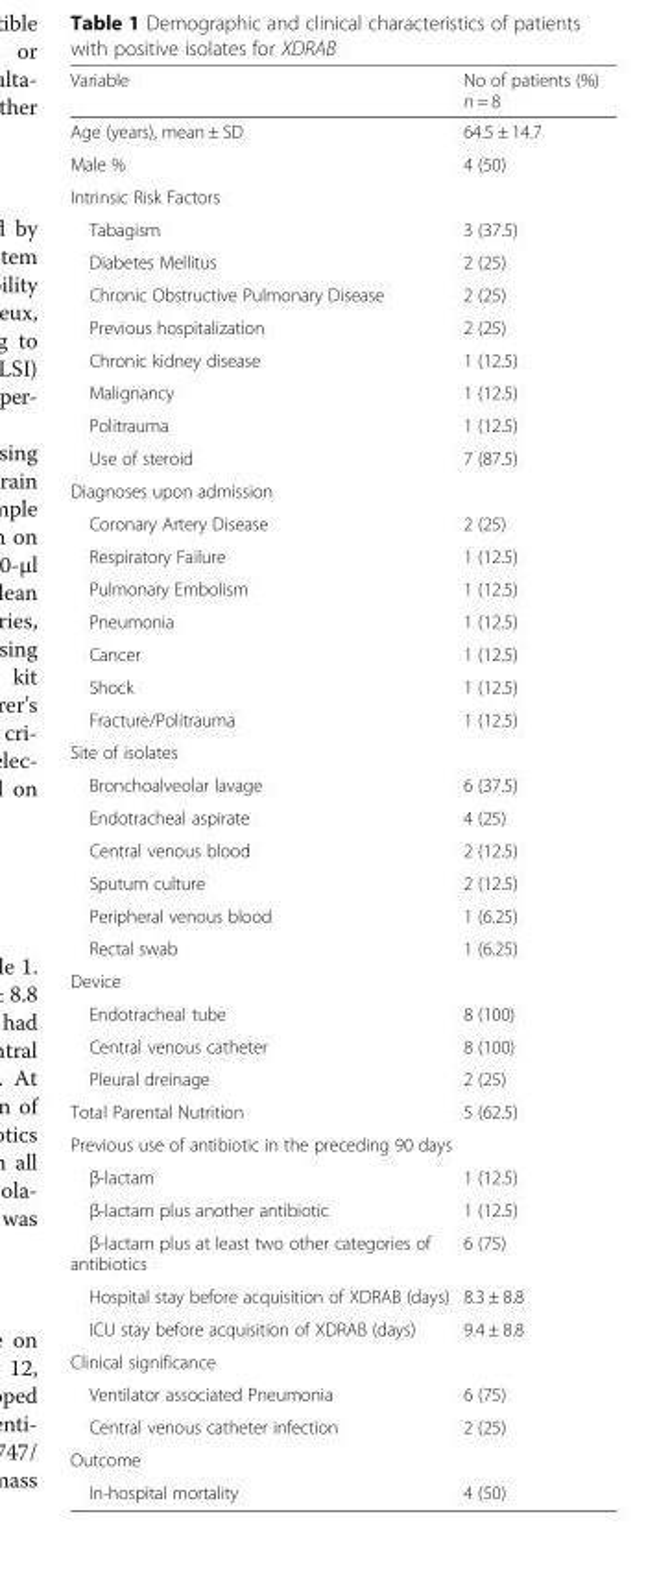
<table><thead><tr><td>Variable</td><td>No of patients (%) n = 8</td></tr></thead><tbody><tr><td>Age (years), mean ± SD</td><td>64.5 ± 14.7</td></tr><tr><td>Male %</td><td>4 (50)</td></tr><tr><td colspan="2">Intrinsic Risk Factors</td></tr><tr><td>Tabagism</td><td>3 (37.5)</td></tr><tr><td>Diabetes Mellitus</td><td>2 (25)</td></tr><tr><td>Chronic Obstructive Pulmonary Disease</td><td>2 (25)</td></tr><tr><td>Previous hospitalization</td><td>2 (25)</td></tr><tr><td>Chronic kidney disease</td><td>1 (12.5)</td></tr><tr><td>Malignancy</td><td>1 (12.5)</td></tr><tr><td>Politrauma</td><td>1 (12.5)</td></tr><tr><td>Use of steroid</td><td>7 (87.5)</td></tr><tr><td colspan="2">Diagnoses upon admission</td></tr><tr><td>Coronary Artery Disease</td><td>2 (25)</td></tr><tr><td>Respiratory Failure</td><td>1 (12.5)</td></tr><tr><td>Pulmonary Embolism</td><td>1 (12.5)</td></tr><tr><td>Pneumonia</td><td>1 (12.5)</td></tr><tr><td>Cancer</td><td>1 (12.5)</td></tr><tr><td>Shock</td><td>1 (12.5)</td></tr><tr><td>Fracture/Politrauma</td><td>1 (12.5)</td></tr><tr><td colspan="2">Site of isolates</td></tr><tr><td>Bronchoalveolar lavage</td><td>6 (37.5)</td></tr><tr><td>Endotracheal aspirate</td><td>4 (25)</td></tr><tr><td>Central venous blood</td><td>2 (12.5)</td></tr><tr><td>Sputum culture</td><td>2 (12.5)</td></tr><tr><td>Peripheral venous blood</td><td>1 (6.25)</td></tr><tr><td>Rectal swab</td><td>1 (6.25)</td></tr><tr><td colspan="2">Device</td></tr><tr><td>Endotracheal tube</td><td>8 (100)</td></tr><tr><td>Central venous catheter</td><td>8 (100)</td></tr><tr><td>Pleural dreinage</td><td>2 (25)</td></tr><tr><td>Total Parental Nutrition</td><td>5 (62.5)</td></tr><tr><td colspan="2">Previous use of antibiotic in the preceding 90 days</td></tr><tr><td>β-lactam</td><td>1 (12.5)</td></tr><tr><td>β-lactam plus another antibiotic</td><td>1 (12.5)</td></tr><tr><td>β-lactam plus at least two other categories of antibiotics</td><td>6 (75)</td></tr><tr><td>Hospital stay before acquisition of XDRAB (days)</td><td>8.3 ± 8.8</td></tr><tr><td>ICU stay before acquisition of XDRAB (days)</td><td>9.4 ± 8.8</td></tr><tr><td colspan="2">Clinical significance</td></tr><tr><td>Ventilator associated Pneumonia</td><td>6 (75)</td></tr><tr><td>Central venous catheter infection</td><td>2 (25)</td></tr><tr><td colspan="2">Outcome</td></tr><tr><td>In-hospital mortality</td><td>4 (50)</td></tr></tbody></table>